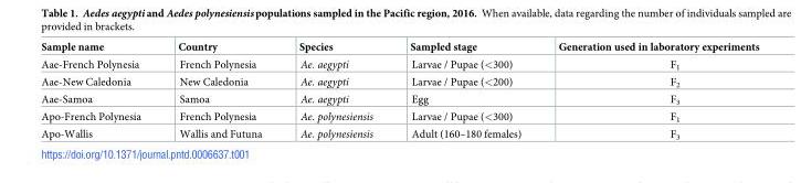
<table><thead><tr><td>Sample name</td><td>Country</td><td>Species</td><td>Sampled stage</td><td>Generation used in laboratory experiments</td></tr></thead><tbody><tr><td>Aae-French Polynesia</td><td>French Polynesia</td><td>Ae. aegypti</td><td>Larvae / Pupae (&lt;300)</td><td>F<sub>1</sub></td></tr><tr><td>Aae-New Caledonia</td><td>New Caledonia</td><td>Ae. aegypti</td><td>Larvae / Pupae (&lt;200)</td><td>F<sub>2</sub></td></tr><tr><td>Aae-Samoa</td><td>Samoa</td><td>Ae. aegypti</td><td>Egg</td><td>F<sub>3</sub></td></tr><tr><td>Apo-French Polynesia</td><td>French Polynesia</td><td>Ae. polynesiensis</td><td>Larvae / Pupae (&lt;300)</td><td>F<sub>1</sub></td></tr><tr><td>Apo-Wallis</td><td>Wallis and Futuna</td><td>Ae. polynesiensis</td><td>Adult (160–180 females)</td><td>F<sub>3</sub></td></tr></tbody></table>